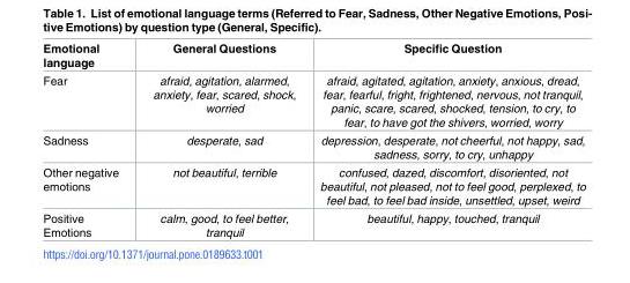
<table><thead><tr><td>Emotional language</td><td>General Questions</td><td>Specific Question</td></tr></thead><tbody><tr><td>Fear</td><td>afraid, agitation, alarmed, anxiety, fear, scared, shock, worried</td><td>afraid, agitated, agitation, anxiety, anxious, dread, fear, fearful, fright, frightened, nervous, not tranquil, panic, scare, scared, shocked, tension, to cry, to fear, to have got the shivers, worried, worry</td></tr><tr><td>Sadness</td><td>desperate, sad</td><td>depression, desperate, not cheerful, not happy, sad, sadness, sorry, to cry, unhappy</td></tr><tr><td>Other negative emotions</td><td>not beautiful, terrible</td><td>confused, dazed, discomfort, disoriented, not beautiful, not pleased, not to feel good, perplexed, to feel bad, to feel bad inside, unsettled, upset, weird</td></tr><tr><td>Positive Emotions</td><td>calm, good, to feel better, tranquil</td><td>beautiful, happy, touched, tranquil</td></tr></tbody></table>